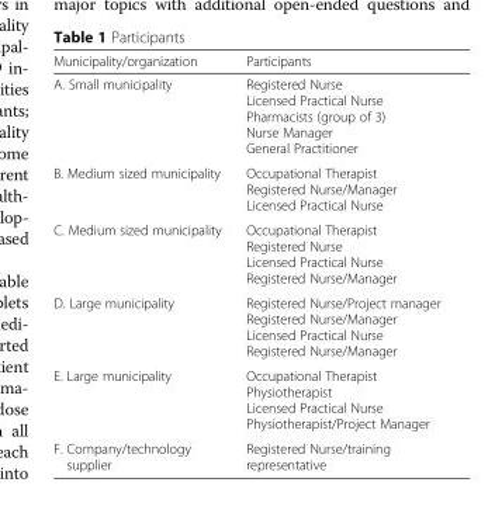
<table><thead><tr><td>Municipality/organization</td><td>Participants</td></tr></thead><tbody><tr><td>A. Small municipality</td><td>Registered Nurse Licensed Practical Nurse Pharmacists (group of 3) Nurse Manager General Practitioner</td></tr><tr><td>B. Medium sized municipality</td><td>Occupational Therapist Registered Nurse/Manager Licensed Practical Nurse</td></tr><tr><td>C. Medium sized municipality</td><td>Occupational Therapist Registered Nurse Licensed Practical Nurse Registered Nurse/Manager</td></tr><tr><td>D. Large municipality</td><td>Registered Nurse/Project manager Registered Nurse/Manager Licensed Practical Nurse Registered Nurse/Manager</td></tr><tr><td>E. Large municipality</td><td>Occupational Therapist Physiotherapist Licensed Practical Nurse Physiotherapist/Project Manager</td></tr><tr><td>F. Company/technology supplier</td><td>Registered Nurse/training representative</td></tr></tbody></table>